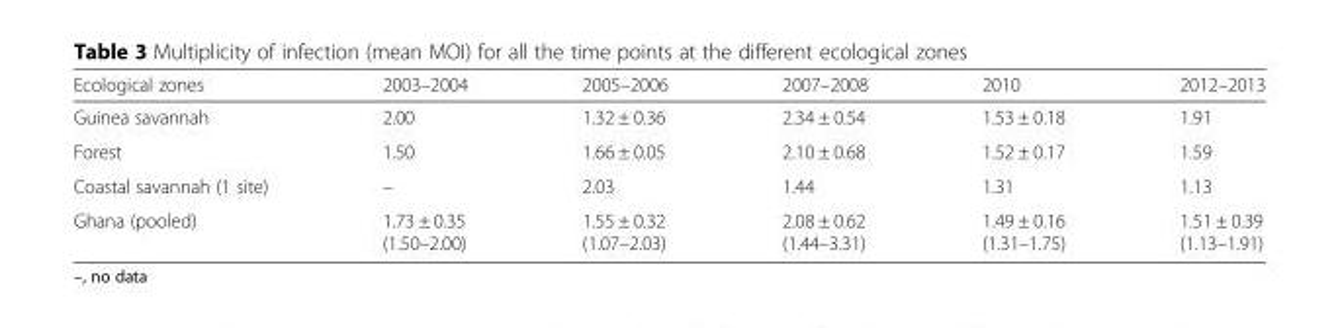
<table><thead><tr><td>Ecological zones</td><td>2003–2004</td><td>2005–2006</td><td>2007–2008</td><td>2010</td><td>2012–2013</td></tr></thead><tbody><tr><td>Guinea savannah</td><td>2.00</td><td>1.32 ± 0.36</td><td>2.34 ± 0.54</td><td>1.53 ± 0.18</td><td>1.91</td></tr><tr><td>Forest</td><td>1.50</td><td>1.66 ± 0.05</td><td>2.10 ± 0.68</td><td>1.52 ± 0.17</td><td>1.59</td></tr><tr><td>Coastal savannah (1 site)</td><td>–</td><td>2.03</td><td>1.44</td><td>1.31</td><td>1.13</td></tr><tr><td>Ghana (pooled)</td><td>1.73 ± 0.35 (1.50–2.00)</td><td>1.55 ± 0.32 (1.07–2.03)</td><td>2.08 ± 0.62 (1.44–3.31)</td><td>1.49 ± 0.16 (1.31–1.75)</td><td>1.51 ± 0.39 (1.13–1.91)</td></tr></tbody></table>